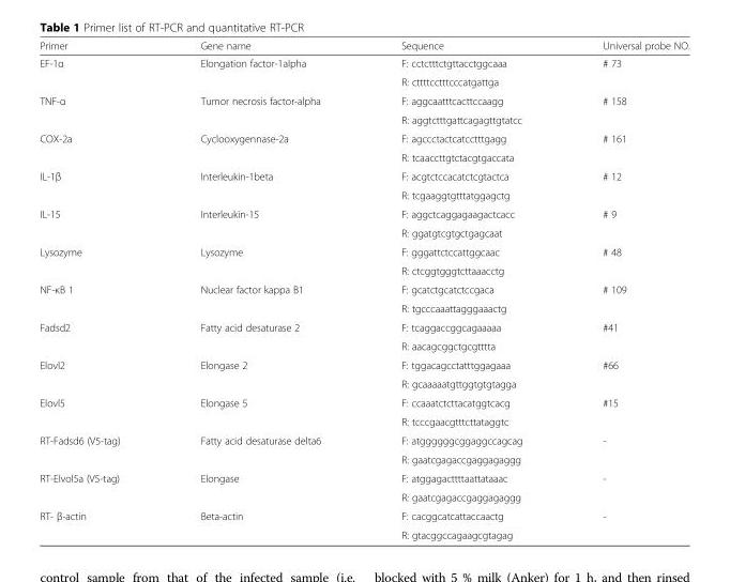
<table><thead><tr><td>Primer</td><td>Gene name</td><td>Sequence</td><td>Universal probe NO.</td></tr></thead><tbody><tr><td rowspan="2">EF-1α</td><td rowspan="2">Elongation factor-1alpha</td><td>F: cctctttctgttacctggcaaa</td><td rowspan="2"># 73</td></tr><tr><td>R: cttttcctttcccatgattga</td></tr><tr><td rowspan="2">TNF-α</td><td rowspan="2">Tumor necrosis factor-alpha</td><td>F: aggcaatttcacttccaagg</td><td rowspan="2"># 158</td></tr><tr><td>R: aggtctttgattcagagttgtatcc</td></tr><tr><td rowspan="2">COX-2a</td><td rowspan="2">Cyclooxygennase-2a</td><td>F: agccctactcatcctttgagg</td><td rowspan="2"># 161</td></tr><tr><td>R: tcaaccttgtctacgtgaccata</td></tr><tr><td rowspan="2">IL-1β</td><td rowspan="2">Interleukin-1beta</td><td>F: acgtctccacatctcgtactca</td><td rowspan="2"># 12</td></tr><tr><td>R: tcgaaggtgtttatggagctg</td></tr><tr><td rowspan="2">IL-15</td><td rowspan="2">Interleukin-15</td><td>F: aggctcaggagaagactcacc</td><td rowspan="2"># 9</td></tr><tr><td>R: ggatgtcgtgctgagcaat</td></tr><tr><td rowspan="2">Lysozyme</td><td rowspan="2">Lysozyme</td><td>F: gggattctccattggcaac</td><td rowspan="2"># 48</td></tr><tr><td>R: ctcggtgggtcttaaacctg</td></tr><tr><td rowspan="2">NF-κB 1</td><td rowspan="2">Nuclear factor kappa B1</td><td>F: gcatctgcatctccgaca</td><td rowspan="2"># 109</td></tr><tr><td>R: tgcccaaattagggaaactg</td></tr><tr><td rowspan="2">Fadsd2</td><td rowspan="2">Fatty acid desaturase 2</td><td>F: tcaggaccggcagaaaaa</td><td rowspan="2">#41</td></tr><tr><td>R: aacagcggctgcgtttta</td></tr><tr><td rowspan="2">Elovl2</td><td rowspan="2">Elongase 2</td><td>F: tggacagcctatttggagaaa</td><td rowspan="2">#66</td></tr><tr><td>R: gcaaaaatgttggtgtgtagga</td></tr><tr><td rowspan="2">Elovl5</td><td rowspan="2">Elongase 5</td><td>F: ccaaatctcttacatggtcacg</td><td rowspan="2">#15</td></tr><tr><td>R: tcccgaacgtttcttataggtc</td></tr><tr><td rowspan="2">RT-Fadsd6 (V5-tag)</td><td rowspan="2">Fatty acid desaturase delta6</td><td>F: atggggggcggaggccagcag</td><td rowspan="2">-</td></tr><tr><td>R: gaatcgagaccgaggagaggg</td></tr><tr><td rowspan="2">RT-Elvol5a (V5-tag)</td><td rowspan="2">Elongase</td><td>F: atggagacttttaattataaac</td><td rowspan="2">-</td></tr><tr><td>R: gaatcgagaccgaggagaggg</td></tr><tr><td rowspan="2">RT- β-actin</td><td rowspan="2">Beta-actin</td><td>F: cacggcatcattaccaactg</td><td rowspan="2">-</td></tr><tr><td>R: gtacggccagaagcgtagag</td></tr></tbody></table>